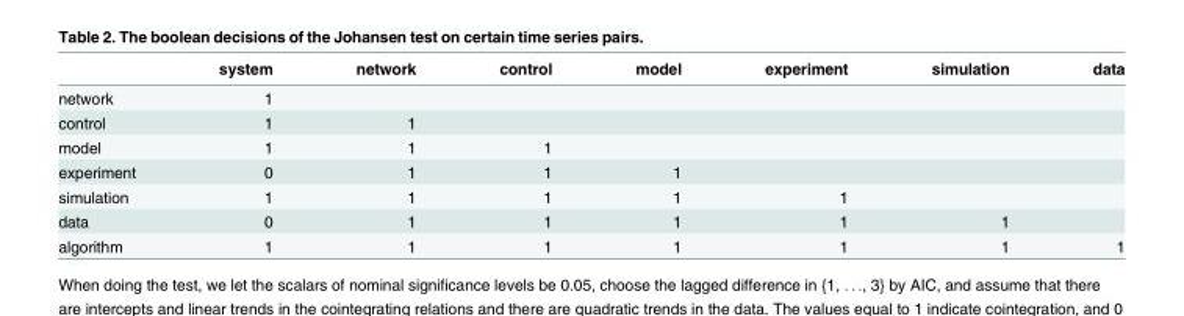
<table><thead><tr><td></td><td>system</td><td>network</td><td>control</td><td>model</td><td>experiment</td><td>simulation</td><td>data</td></tr></thead><tbody><tr><td>network</td><td>1</td><td></td><td></td><td></td><td></td><td></td><td></td></tr><tr><td>control</td><td>1</td><td>1</td><td></td><td></td><td></td><td></td><td></td></tr><tr><td>model</td><td>1</td><td>1</td><td>1</td><td></td><td></td><td></td><td></td></tr><tr><td>experiment</td><td>0</td><td>1</td><td>1</td><td>1</td><td></td><td></td><td></td></tr><tr><td>simulation</td><td>1</td><td>1</td><td>1</td><td>1</td><td>1</td><td></td><td></td></tr><tr><td>data</td><td>0</td><td>1</td><td>1</td><td>1</td><td>1</td><td>1</td><td></td></tr><tr><td>algorithm</td><td>1</td><td>1</td><td>1</td><td>1</td><td>1</td><td>1</td><td>1</td></tr></tbody></table>